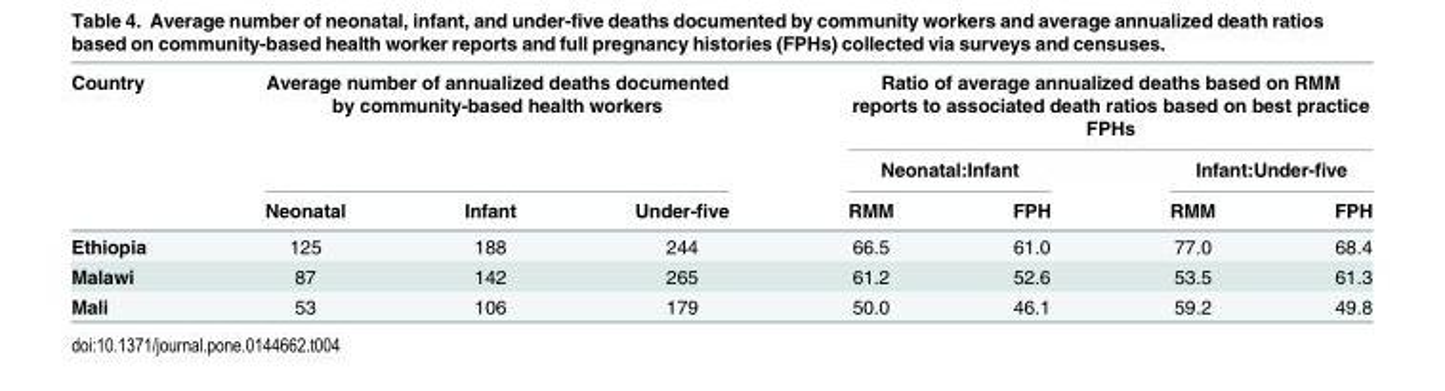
<table><thead><tr><td rowspan="3">Country</td><td rowspan="2" colspan="3">Average number of annualized deaths documented by community-based health workers</td><td colspan="4">Ratio of average annualized deaths based on RMM reports to associated death ratios based on best practice FPHs</td></tr><tr><td colspan="2">Neonatal:Infant</td><td colspan="2">Infant:Under-five</td></tr><tr><td>Neonatal</td><td>Infant</td><td>Under-five</td><td>RMM</td><td>FPH</td><td>RMM</td><td>FPH</td></tr></thead><tbody><tr><td>Ethiopia</td><td>125</td><td>188</td><td>244</td><td>66.5</td><td>61.0</td><td>77.0</td><td>68.4</td></tr><tr><td>Malawi</td><td>87</td><td>142</td><td>265</td><td>61.2</td><td>52.6</td><td>53.5</td><td>61.3</td></tr><tr><td>Mali</td><td>53</td><td>106</td><td>179</td><td>50.0</td><td>46.1</td><td>59.2</td><td>49.8</td></tr></tbody></table>